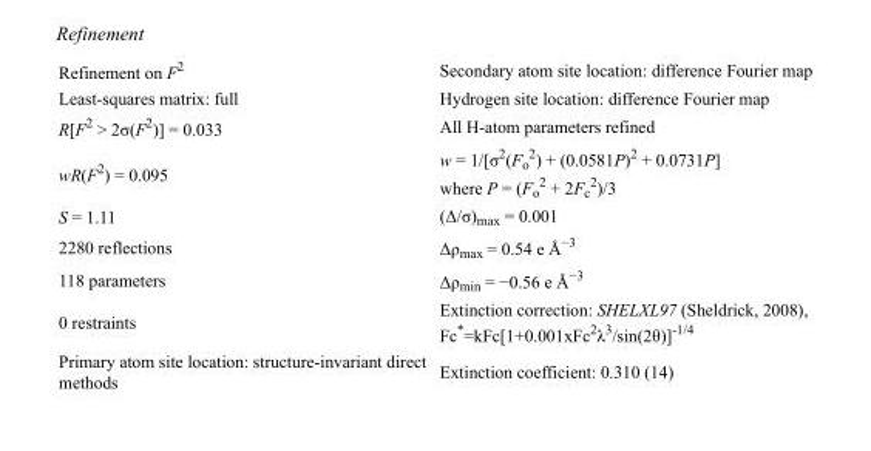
<table><tbody><tr><td>Refinement on F<sup>2</sup></td><td>Secondary atom site location: difference Fourier map</td></tr><tr><td>Least-squares matrix: full</td><td>Hydrogen site location: difference Fourier map</td></tr><tr><td>R[F<sup>2</sup> &gt; 2σ(F<sup>2</sup>)] = 0.033</td><td>All H-atom parameters refined</td></tr><tr><td>wR(F<sup>2</sup>) = 0.095</td><td>w = 1/[σ<sup>2</sup>(F<sub>o</sub> <sup>2</sup>) + (0.0581P)<sup>2</sup> + 0.0731P] where P = (F<sub>o</sub> <sup>2</sup> + 2F<sub>c</sub> <sup>2</sup>)/3</td></tr><tr><td>S = 1.11</td><td>(Δ/σ)<sub>max</sub> = 0.001</td></tr><tr><td>2280 reflections</td><td>Δρ<sub>max</sub> = 0.54 e Å<sup>−3</sup></td></tr><tr><td>118 parameters</td><td>Δρ<sub>min</sub> = −0.56 e Å<sup>−3</sup></td></tr><tr><td>0 restraints</td><td>Extinction correction: SHELXL97 (Sheldrick, 2008), Fc*=kFc[1+0.001xFc<sup>2</sup>λ<sup>3</sup>/sin(2θ)]<sup>-1/4</sup></td></tr><tr><td>Primary atom site location: structure-invariant direct methods</td><td>Extinction coefficient: 0.310 (14)</td></tr></tbody></table>